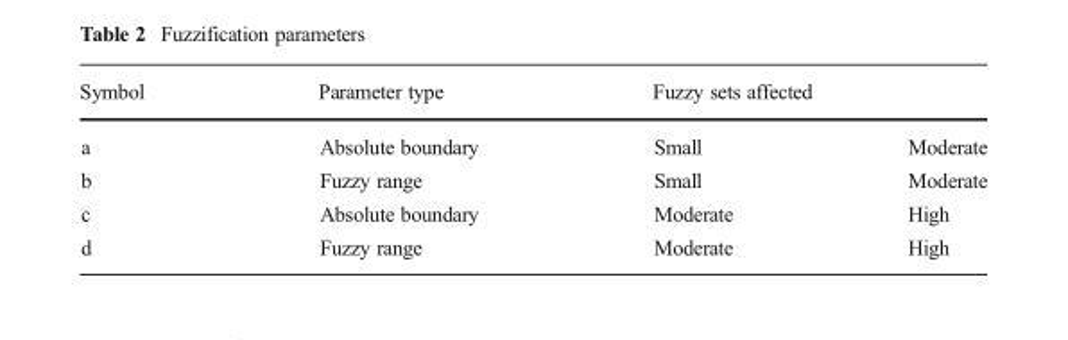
<table><thead><tr><td rowspan="2">Symbol a</td><td rowspan="2">Parameter type Absolute boundary</td><td colspan="2">Fuzzy sets affected</td></tr><tr><td>Small</td><td>Moderate</td></tr></thead><tbody><tr><td>b</td><td>Fuzzy range</td><td>Small</td><td>Moderate</td></tr><tr><td>c</td><td>Absolute boundary</td><td>Moderate</td><td>High</td></tr><tr><td>d</td><td>Fuzzy range</td><td>Moderate</td><td>High</td></tr></tbody></table>